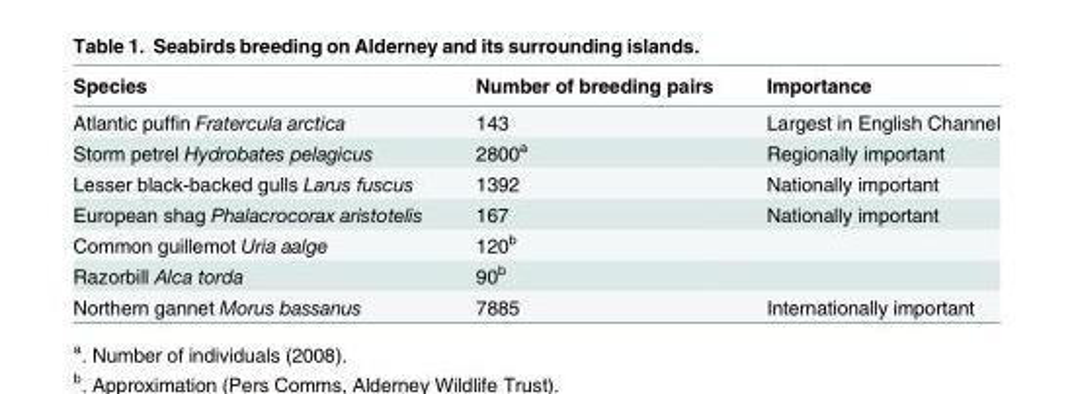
<table><thead><tr><td>Species</td><td>Number of breeding pairs</td><td>Importance</td></tr></thead><tbody><tr><td>Atlantic puffin Fratercula arctica</td><td>143</td><td>Largest in English Channel</td></tr><tr><td>Storm petrel Hydrobates pelagicus</td><td>2800<sup>a</sup></td><td>Regionally important</td></tr><tr><td>Lesser black-backed gulls Larus fuscus</td><td>1392</td><td>Nationally important</td></tr><tr><td>European shag Phalacrocorax aristotelis</td><td>167</td><td>Nationally important</td></tr><tr><td>Common guillemot Uria aalge</td><td>120<sup>b</sup></td><td></td></tr><tr><td>Razorbill Alca torda</td><td>90<sup>b</sup></td><td></td></tr><tr><td>Northern gannet Morus bassanus</td><td>7885</td><td>Internationally important</td></tr></tbody></table>